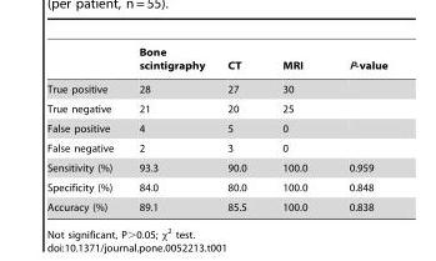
<table><thead><tr><td></td><td>Bone scintigraphy</td><td>CT</td><td>MRI</td><td>P-value</td></tr></thead><tbody><tr><td>True positive</td><td>28</td><td>27</td><td>30</td><td></td></tr><tr><td>True negative</td><td>21</td><td>20</td><td>25</td><td></td></tr><tr><td>False positive</td><td>4</td><td>5</td><td>0</td><td></td></tr><tr><td>False negative</td><td>2</td><td>3</td><td>0</td><td></td></tr><tr><td>Sensitivity (%)</td><td>93.3</td><td>90.0</td><td>100.0</td><td>0.959</td></tr><tr><td>Specificity (%)</td><td>84.0</td><td>80.0</td><td>100.0</td><td>0.848</td></tr><tr><td>Accuracy (%)</td><td>89.1</td><td>85.5</td><td>100.0</td><td>0.838</td></tr></tbody></table>